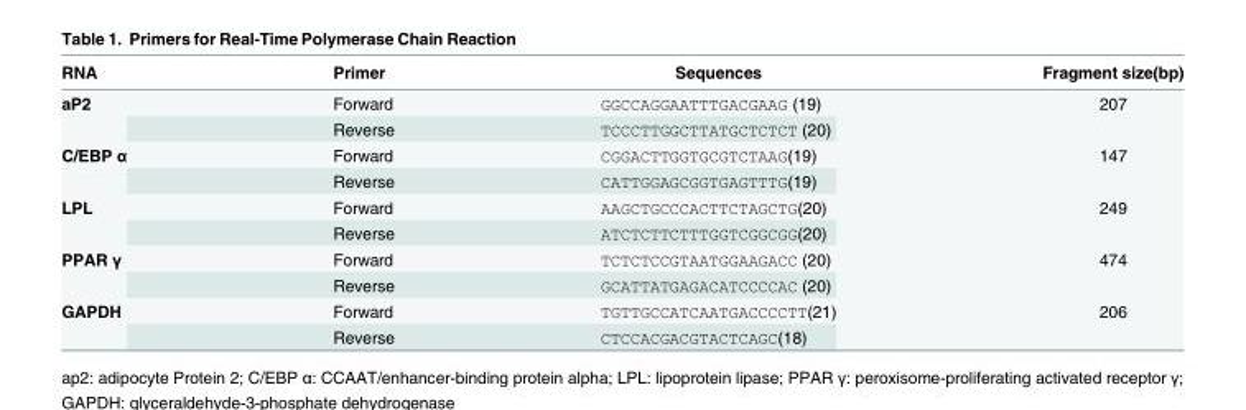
<table><thead><tr><td>RNA</td><td>Primer</td><td>Sequences</td><td>Fragment size(bp)</td></tr></thead><tbody><tr><td rowspan="2">aP2</td><td>Forward</td><td>GGCCAGGAATTTGACGAAG (19)</td><td rowspan="2">207</td></tr><tr><td>Reverse</td><td>TCCCTTGGCTTATGCTCTCT (20)</td></tr><tr><td rowspan="2">C/EBP α</td><td>Forward</td><td>CGGACTTGGTGCGTCTAAG(19)</td><td rowspan="2">147</td></tr><tr><td>Reverse</td><td>CATTGGAGCGGTGAGTTTG(19)</td></tr><tr><td rowspan="2">LPL</td><td>Forward</td><td>AAGCTGCCCACTTCTAGCTG(20)</td><td rowspan="2">249</td></tr><tr><td>Reverse</td><td>ATCTCTTCTTTGGTCGGCGG(20)</td></tr><tr><td rowspan="2">PPAR γ</td><td>Forward</td><td>TCTCTCCGTAATGGAAGACC (20)</td><td rowspan="2">474</td></tr><tr><td>Reverse</td><td>GCATTATGAGACATCCCCAC (20)</td></tr><tr><td rowspan="2">GAPDH</td><td>Forward</td><td>TGTTGCCATCAATGACCCCTT(21)</td><td rowspan="2">206</td></tr><tr><td>Reverse</td><td>CTCCACGACGTACTCAGC(18)</td></tr></tbody></table>